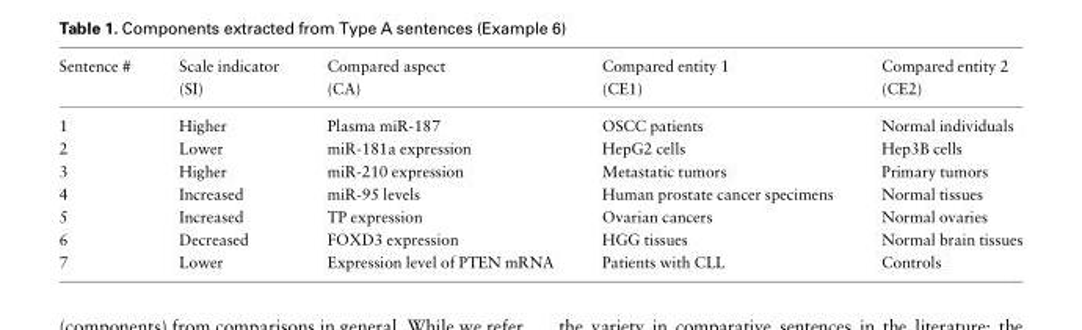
<table><thead><tr><td rowspan="2">Sentence #</td><td rowspan="2">Scale indicator (SI)</td><td rowspan="2">Compared aspect (CA)</td><td rowspan="2">Compared entity 1 (CE1)</td><td rowspan="2">Compared entity 2 (CE2)</td></tr><tr></tr></thead><tbody><tr><td>1</td><td>Higher</td><td>Plasma miR-187</td><td>OSCC patients</td><td>Normal individuals</td></tr><tr><td>2</td><td>Lower</td><td>miR-181a expression</td><td>HepG2 cells</td><td>Hep3B cells</td></tr><tr><td>3</td><td>Higher</td><td>miR-210 expression</td><td>Metastatic tumors</td><td>Primary tumors</td></tr><tr><td>4</td><td>Increased</td><td>miR-95 levels</td><td>Human prostate cancer specimens</td><td>Normal tissues</td></tr><tr><td>5</td><td>Increased</td><td>TP expression</td><td>Ovarian cancers</td><td>Normal ovaries</td></tr><tr><td>6</td><td>Decreased</td><td>FOXD3 expression</td><td>HGG tissues</td><td>Normal brain tissues</td></tr><tr><td>7</td><td>Lower</td><td>Expression level of PTEN mRNA</td><td>Patients with CLL</td><td>Controls</td></tr></tbody></table>